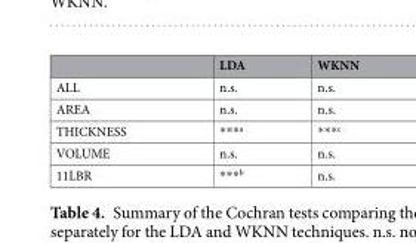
<table><thead><tr><td></td><td>LDA</td><td>WKNN</td></tr></thead><tbody><tr><td>ALL</td><td>n.s.</td><td>n.s.</td></tr><tr><td>AREA</td><td>n.s.</td><td>n.s.</td></tr><tr><td>THICKNESS</td><td>***<sup>a</sup></td><td>***<sup>c</sup></td></tr><tr><td>VOLUME</td><td>n.s.</td><td>n.s.</td></tr><tr><td>11LBR</td><td>***<sup>b</sup></td><td>n.s.</td></tr></tbody></table>